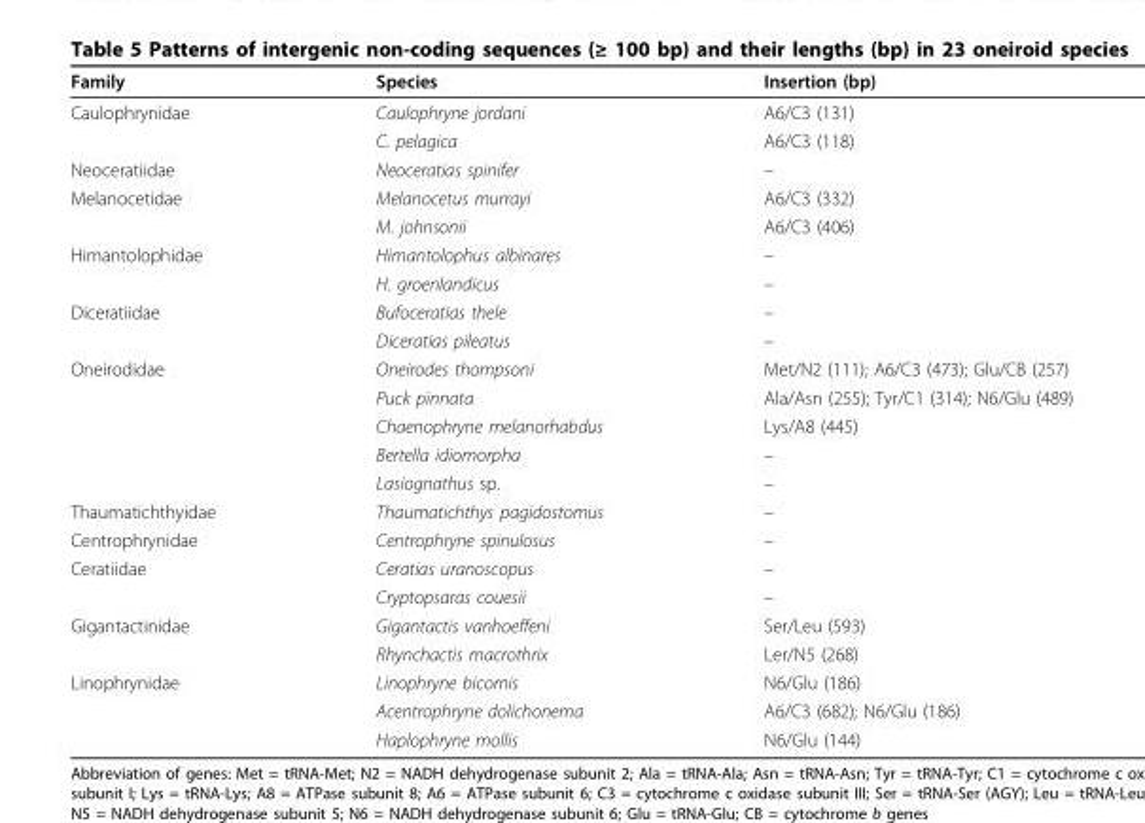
<table><thead><tr><td>Family</td><td>Species</td><td>Insertion (bp)</td></tr></thead><tbody><tr><td rowspan="2">Caulophrynidae</td><td>Caulophryne jordani</td><td>A6/C3 (131)</td></tr><tr><td>C. pelagica</td><td>A6/C3 (118)</td></tr><tr><td>Neoceratiidae</td><td>Neoceratias spinifer</td><td>–</td></tr><tr><td rowspan="2">Melanocetidae</td><td>Melanocetus murrayi</td><td>A6/C3 (332)</td></tr><tr><td>M. johnsonii</td><td>A6/C3 (406)</td></tr><tr><td rowspan="2">Himantolophidae</td><td>Himantolophus albinares</td><td>–</td></tr><tr><td>H. groenlandicus</td><td>–</td></tr><tr><td rowspan="2">Diceratiidae</td><td>Bufoceratias thele</td><td>–</td></tr><tr><td>Diceratias pileatus</td><td>–</td></tr><tr><td rowspan="5">Oneirodidae</td><td>Oneirodes thompsoni</td><td>Met/N2 (111); A6/C3 (473); Glu/CB (257)</td></tr><tr><td>Puck pinnata</td><td>Ala/Asn (255); Tyr/C1 (314); N6/Glu (489)</td></tr><tr><td>Chaenophryne melanorhabdus</td><td>Lys/A8 (445)</td></tr><tr><td>Bertella idiomorpha</td><td>–</td></tr><tr><td>Lasiognathus sp.</td><td>–</td></tr><tr><td>Thaumatichthyidae</td><td>Thaumatichthys pagidostomus</td><td>–</td></tr><tr><td>Centrophrynidae</td><td>Centrophryne spinulosus</td><td>–</td></tr><tr><td rowspan="2">Ceratiidae</td><td>Ceratias uranoscopus</td><td>–</td></tr><tr><td>Cryptopsaras couesii</td><td>–</td></tr><tr><td rowspan="2">Gigantactinidae</td><td>Gigantactis vanhoeffeni</td><td>Ser/Leu (593)</td></tr><tr><td>Rhynchactis macrothrix</td><td>Ler/N5 (268)</td></tr><tr><td rowspan="3">Linophrynidae</td><td>Linophryne bicornis</td><td>N6/Glu (186)</td></tr><tr><td>Acentrophryne dolichonema</td><td>A6/C3 (682); N6/Glu (186)</td></tr><tr><td>Haplophryne mollis</td><td>N6/Glu (144)</td></tr></tbody></table>